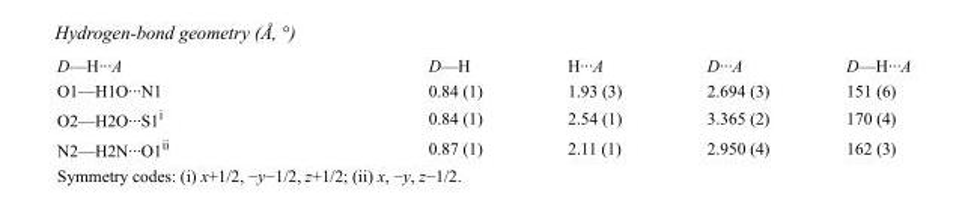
<table><tbody><tr><td>D—H···A</td><td>D—H</td><td>H···A</td><td>D···A</td><td>D—H···A</td></tr><tr><td>O1—H1O···N1</td><td>0.84 (1)</td><td>1.93 (3)</td><td>2.694 (3)</td><td>151 (6)</td></tr><tr><td>O2—H2O···S1<sup>i</sup></td><td>0.84 (1)</td><td>2.54 (1)</td><td>3.365 (2)</td><td>170 (4)</td></tr><tr><td>N2—H2N···O1<sup>ii</sup></td><td>0.87 (1)</td><td>2.11 (1)</td><td>2.950 (4)</td><td>162 (3)</td></tr></tbody></table>